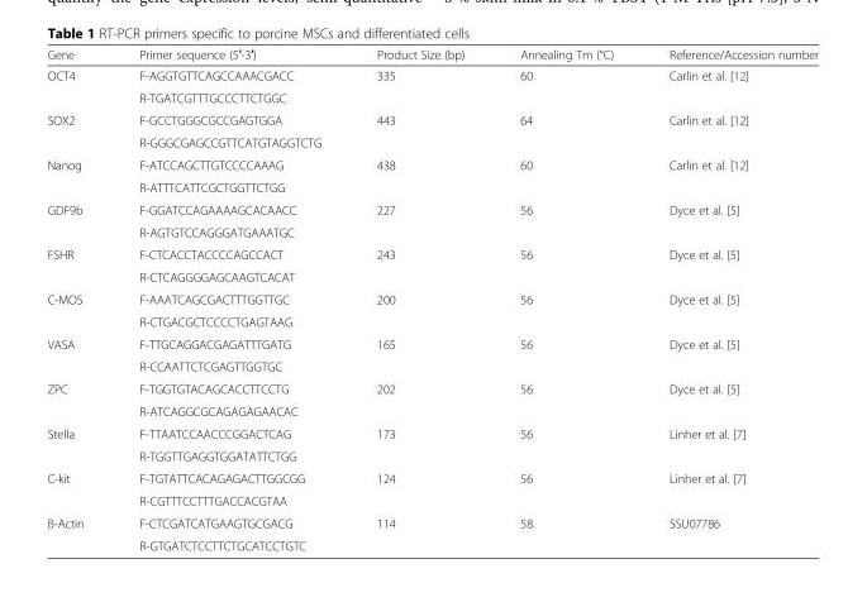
<table><thead><tr><td>Gene</td><td>Primer sequence (5′-3′)</td><td>Product Size (bp)</td><td>Annealing Tm (°C)</td><td>Reference/Accession number</td></tr></thead><tbody><tr><td rowspan="2">OCT4</td><td>F-AGGTGTTCAGCCAAACGACC</td><td rowspan="2">335</td><td rowspan="2">60</td><td rowspan="2">Carlin et al. [12]</td></tr><tr><td>R-TGATCGTTTGCCCTTCTGGC</td></tr><tr><td rowspan="2">SOX2</td><td>F-GCCTGGGCGCCGAGTGGA</td><td rowspan="2">443</td><td rowspan="2">64</td><td rowspan="2">Carlin et al. [12]</td></tr><tr><td>R-GGGCGAGCCGTTCATGTAGGTCTG</td></tr><tr><td rowspan="2">Nanog</td><td>F-ATCCAGCTTGTCCCCAAAG</td><td rowspan="2">438</td><td rowspan="2">60</td><td rowspan="2">Carlin et al. [12]</td></tr><tr><td>R-ATTTCATTCGCTGGTTCTGG</td></tr><tr><td rowspan="2">GDF9b</td><td>F-GGATCCAGAAAAGCACAACC</td><td rowspan="2">227</td><td rowspan="2">56</td><td rowspan="2">Dyce et al. [5]</td></tr><tr><td>R-AGTGTCCAGGGATGAAATGC</td></tr><tr><td rowspan="2">FSHR</td><td>F-CTCACCTACCCCAGCCACT</td><td rowspan="2">243</td><td rowspan="2">56</td><td rowspan="2">Dyce et al. [5]</td></tr><tr><td>R-CTCAGGGGAGCAAGTCACAT</td></tr><tr><td rowspan="2">C-MOS</td><td>F-AAATCAGCGACTTTGGTTGC</td><td rowspan="2">200</td><td rowspan="2">56</td><td rowspan="2">Dyce et al. [5]</td></tr><tr><td>R-CTGACGCTCCCCTGAGTAAG</td></tr><tr><td rowspan="2">VASA</td><td>F-TTGCAGGACGAGATTTGATG</td><td rowspan="2">165</td><td rowspan="2">56</td><td rowspan="2">Dyce et al. [5]</td></tr><tr><td>R-CCAATTCTCGAGTTGGTGC</td></tr><tr><td rowspan="2">ZPC</td><td>F-TGGTGTACAGCACCTTCCTG</td><td rowspan="2">202</td><td rowspan="2">56</td><td rowspan="2">Dyce et al. [5]</td></tr><tr><td>R-ATCAGGCGCAGAGAGAACAC</td></tr><tr><td rowspan="2">Stella</td><td>F-TTAATCCAACCCGGACTCAG</td><td rowspan="2">173</td><td rowspan="2">56</td><td rowspan="2">Linher et al. [7]</td></tr><tr><td>R-TGGTTGAGGTGGATATTCTGG</td></tr><tr><td rowspan="2">C-kit</td><td>F-TGTATTCACAGAGACTTGGCGG</td><td rowspan="2">124</td><td rowspan="2">56</td><td rowspan="2">Linher et al. [7]</td></tr><tr><td>R-CGTTTCCTTTGACCACGTAA</td></tr><tr><td rowspan="2">Β-Actin</td><td>F-CTCGATCATGAAGTGCGACG</td><td rowspan="2">114</td><td rowspan="2">58</td><td rowspan="2">SSU07786</td></tr><tr><td>R-GTGATCTCCTTCTGCATCCTGTC</td></tr></tbody></table>